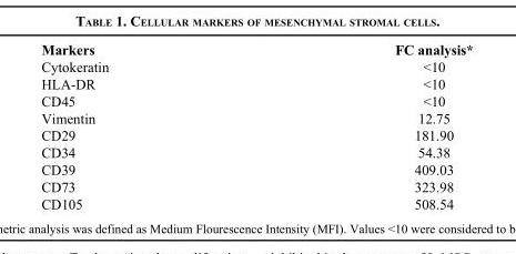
<table><thead><tr><td>Markers</td><td>FC analysis*</td></tr></thead><tbody><tr><td>Cytokeratin</td><td>&lt;10</td></tr><tr><td>HLA-DR</td><td>&lt;10</td></tr><tr><td>CD45</td><td>&lt;10</td></tr><tr><td>Vimentin</td><td>12.75</td></tr><tr><td>CD29</td><td>181.90</td></tr><tr><td>CD34</td><td>54.38</td></tr><tr><td>CD39</td><td>409.03</td></tr><tr><td>CD73</td><td>323.98</td></tr><tr><td>CD105</td><td>508.54</td></tr></tbody></table>